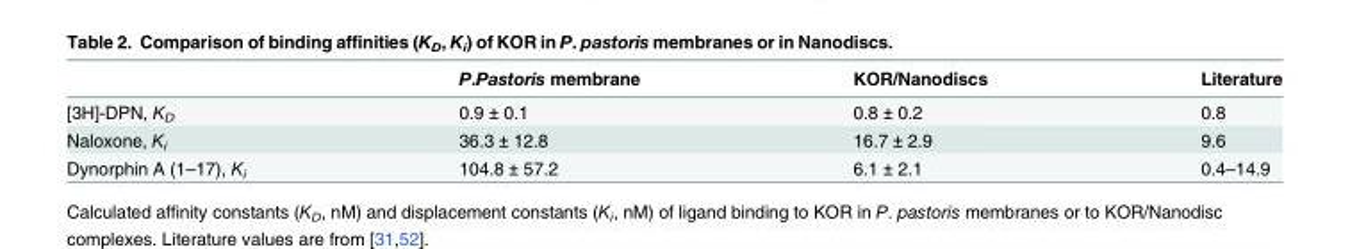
<table><thead><tr><td></td><td>P.Pastoris membrane</td><td>KOR/Nanodiscs</td><td>Literature</td></tr></thead><tbody><tr><td>[3H]-DPN, K<sub>D</sub></td><td>0.9 ± 0.1</td><td>0.8 ± 0.2</td><td>0.8</td></tr><tr><td>Naloxone, K<sub>i</sub></td><td>36.3 ± 12.8</td><td>16.7 ± 2.9</td><td>9.6</td></tr><tr><td>Dynorphin A (1–17), K<sub>i</sub></td><td>104.8 ± 57.2</td><td>6.1 ± 2.1</td><td>0.4–14.9</td></tr></tbody></table>